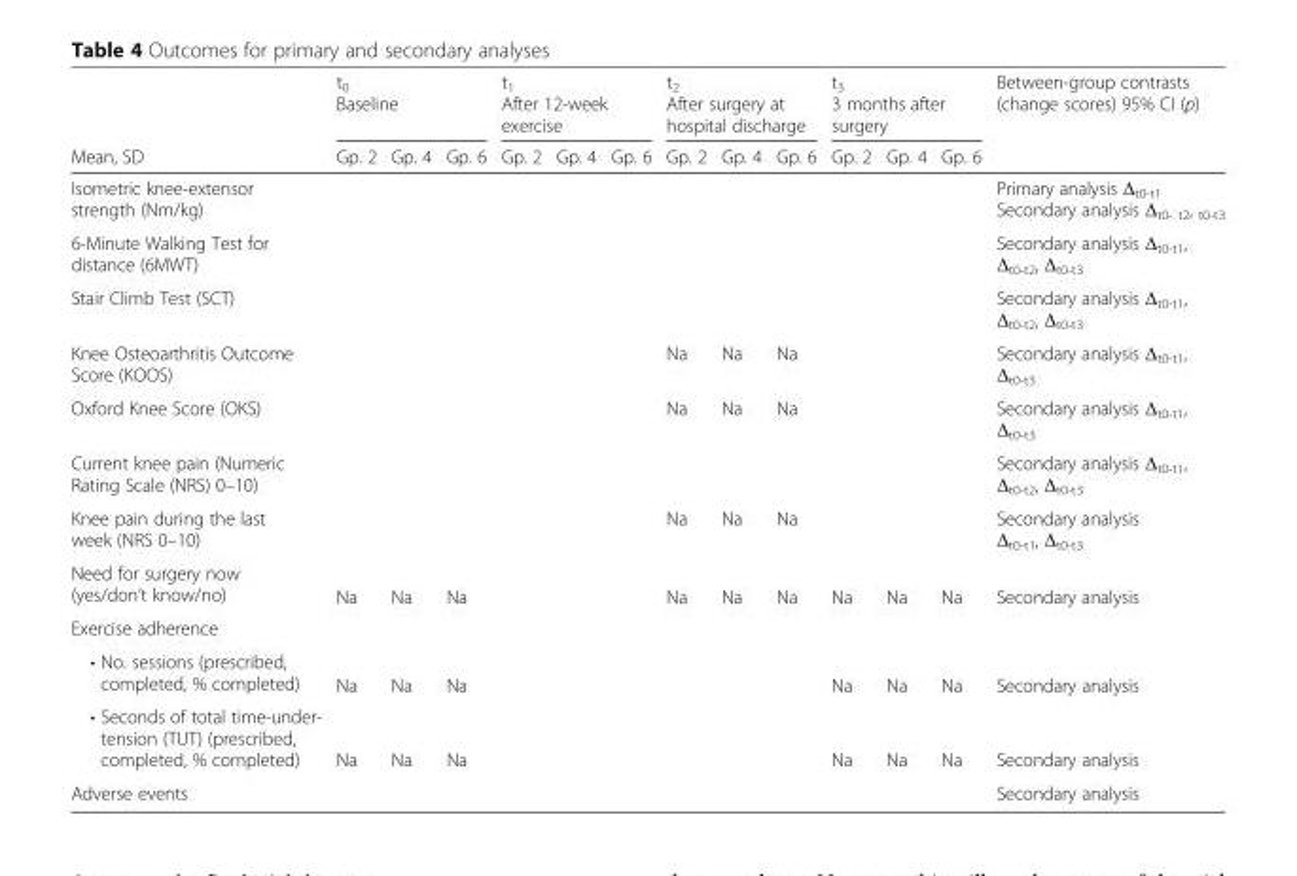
<table><thead><tr><td rowspan="2">Mean, SD</td><td colspan="3">t<sub>0</sub> Baseline</td><td colspan="3">t<sub>1</sub> After 12-week exercise</td><td colspan="3">t<sub>2</sub> After surgery at hospital discharge</td><td colspan="3">t<sub>3</sub> 3 months after surgery</td><td rowspan="2">Between-group contrasts (change scores) 95% CI (p)</td></tr><tr><td>Gp. 2</td><td>Gp. 4</td><td>Gp. 6</td><td>Gp. 2</td><td>Gp. 4</td><td>Gp. 6</td><td>Gp. 2</td><td>Gp. 4</td><td>Gp. 6</td><td>Gp. 2</td><td>Gp. 4</td><td>Gp. 6</td></tr></thead><tbody><tr><td>Isometric knee-extensor strength (Nm/kg)</td><td></td><td></td><td></td><td></td><td></td><td></td><td></td><td></td><td></td><td></td><td></td><td></td><td>Primary analysis Δ<sub>t0-t1</sub> Secondary analysis Δ<sub>t0- t2</sub>, <sub>t0-t3</sub></td></tr><tr><td>6-Minute Walking Test for distance (6MWT)</td><td></td><td></td><td></td><td></td><td></td><td></td><td></td><td></td><td></td><td></td><td></td><td></td><td>Secondary analysis Δ<sub>t0-t1</sub>, Δ<sub>t0-t2</sub>, Δ<sub>t0-t3</sub></td></tr><tr><td>Stair Climb Test (SCT)</td><td></td><td></td><td></td><td></td><td></td><td></td><td></td><td></td><td></td><td></td><td></td><td></td><td>Secondary analysis Δ<sub>t0-t1</sub>, Δ<sub>t0-t2</sub>, Δ<sub>t0-t3</sub></td></tr><tr><td>Knee Osteoarthritis Outcome Score (KOOS)</td><td></td><td></td><td></td><td></td><td></td><td></td><td>Na</td><td>Na</td><td>Na</td><td></td><td></td><td></td><td>Secondary analysis Δ<sub>t0-t1</sub>, Δ<sub>t0-t3</sub></td></tr><tr><td>Oxford Knee Score (OKS)</td><td></td><td></td><td></td><td></td><td></td><td></td><td>Na</td><td>Na</td><td>Na</td><td></td><td></td><td></td><td>Secondary analysis Δ<sub>t0-t1</sub>, Δ<sub>t0-t3</sub></td></tr><tr><td>Current knee pain (Numeric Rating Scale (NRS) 0–10)</td><td></td><td></td><td></td><td></td><td></td><td></td><td></td><td></td><td></td><td></td><td></td><td></td><td>Secondary analysis Δ<sub>t0-t1</sub>, Δ<sub>t0-t2</sub>, Δ<sub>t0-t3</sub></td></tr><tr><td>Knee pain during the last week (NRS 0–10)</td><td></td><td></td><td></td><td></td><td></td><td></td><td>Na</td><td>Na</td><td>Na</td><td></td><td></td><td></td><td>Secondary analysis Δ<sub>t0-t1</sub>, Δ<sub>t0-t3</sub></td></tr><tr><td>Need for surgery now (yes/don’t know/no)</td><td>Na</td><td>Na</td><td>Na</td><td></td><td></td><td></td><td>Na</td><td>Na</td><td>Na</td><td>Na</td><td>Na</td><td>Na</td><td>Secondary analysis</td></tr><tr><td colspan="14">Exercise adherence</td></tr><tr><td>• No. sessions (prescribed, completed, % completed)</td><td>Na</td><td>Na</td><td>Na</td><td></td><td></td><td></td><td></td><td></td><td></td><td>Na</td><td>Na</td><td>Na</td><td>Secondary analysis</td></tr><tr><td>• Seconds of total time-under- tension (TUT) (prescribed, completed, % completed)</td><td>Na</td><td>Na</td><td>Na</td><td></td><td></td><td></td><td></td><td></td><td></td><td>Na</td><td>Na</td><td>Na</td><td>Secondary analysis</td></tr><tr><td>Adverse events</td><td></td><td></td><td></td><td></td><td></td><td></td><td></td><td></td><td></td><td></td><td></td><td></td><td>Secondary analysis</td></tr></tbody></table>